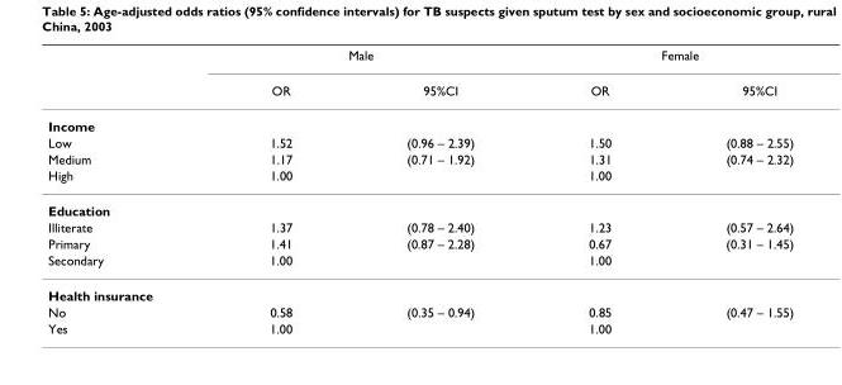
<table><thead><tr><td rowspan="2"></td><td colspan="2">Male</td><td colspan="2">Female</td></tr><tr><td>OR</td><td>95%CI</td><td>OR</td><td>95%CI</td></tr></thead><tbody><tr><td colspan="5">Income</td></tr><tr><td>Low</td><td>1.52</td><td>(0.96 – 2.39)</td><td>1.50</td><td>(0.88 – 2.55)</td></tr><tr><td>Medium</td><td>1.17</td><td>(0.71 – 1.92)</td><td>1.31</td><td>(0.74 – 2.32)</td></tr><tr><td>High</td><td>1.00</td><td></td><td>1.00</td><td></td></tr><tr><td colspan="5">Education</td></tr><tr><td>Illiterate</td><td>1.37</td><td>(0.78 – 2.40)</td><td>1.23</td><td>(0.57 – 2.64)</td></tr><tr><td>Primary</td><td>1.41</td><td>(0.87 – 2.28)</td><td>0.67</td><td>(0.31 – 1.45)</td></tr><tr><td>Secondary</td><td>1.00</td><td></td><td>1.00</td><td></td></tr><tr><td colspan="5">Health insurance</td></tr><tr><td>No</td><td>0.58</td><td>(0.35 – 0.94)</td><td>0.85</td><td>(0.47 – 1.55)</td></tr><tr><td>Yes</td><td>1.00</td><td></td><td>1.00</td><td></td></tr></tbody></table>